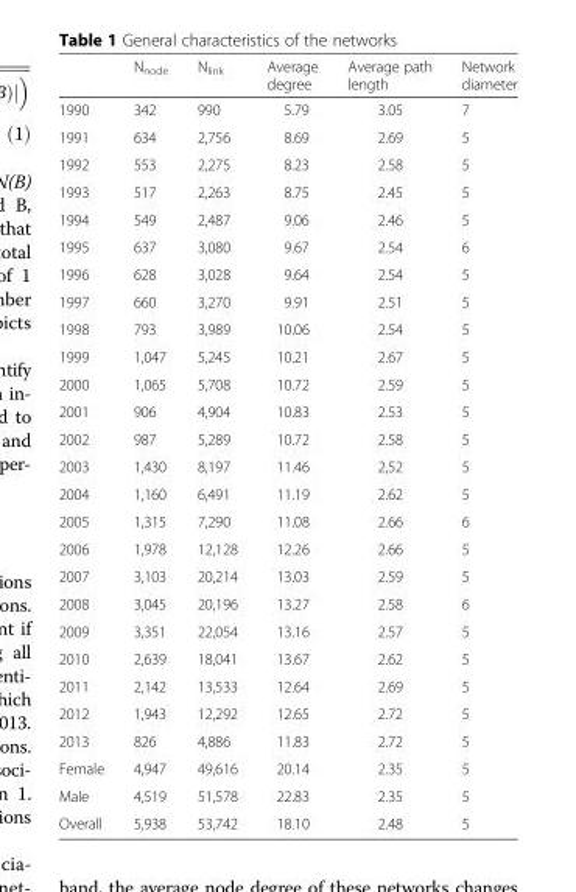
<table><thead><tr><td></td><td>N<sub>node</sub></td><td>N<sub>link</sub></td><td>Average degree</td><td>Average path length</td><td>Network diameter</td></tr></thead><tbody><tr><td>1990</td><td>342</td><td>990</td><td>5.79</td><td>3.05</td><td>7</td></tr><tr><td>1991</td><td>634</td><td>2,756</td><td>8.69</td><td>2.69</td><td>5</td></tr><tr><td>1992</td><td>553</td><td>2,275</td><td>8.23</td><td>2.58</td><td>5</td></tr><tr><td>1993</td><td>517</td><td>2,263</td><td>8.75</td><td>2.45</td><td>5</td></tr><tr><td>1994</td><td>549</td><td>2,487</td><td>9.06</td><td>2.46</td><td>5</td></tr><tr><td>1995</td><td>637</td><td>3,080</td><td>9.67</td><td>2.54</td><td>6</td></tr><tr><td>1996</td><td>628</td><td>3,028</td><td>9.64</td><td>2.54</td><td>5</td></tr><tr><td>1997</td><td>660</td><td>3,270</td><td>9.91</td><td>2.51</td><td>5</td></tr><tr><td>1998</td><td>793</td><td>3,989</td><td>10.06</td><td>2.54</td><td>5</td></tr><tr><td>1999</td><td>1,047</td><td>5,245</td><td>10.21</td><td>2.67</td><td>5</td></tr><tr><td>2000</td><td>1,065</td><td>5,708</td><td>10.72</td><td>2.59</td><td>5</td></tr><tr><td>2001</td><td>906</td><td>4,904</td><td>10.83</td><td>2.53</td><td>5</td></tr><tr><td>2002</td><td>987</td><td>5,289</td><td>10.72</td><td>2.58</td><td>5</td></tr><tr><td>2003</td><td>1,430</td><td>8,197</td><td>11.46</td><td>2,52</td><td>5</td></tr><tr><td>2004</td><td>1,160</td><td>6,491</td><td>11.19</td><td>2.62</td><td>5</td></tr><tr><td>2005</td><td>1,315</td><td>7,290</td><td>11.08</td><td>2.66</td><td>6</td></tr><tr><td>2006</td><td>1,978</td><td>12,128</td><td>12.26</td><td>2.66</td><td>5</td></tr><tr><td>2007</td><td>3,103</td><td>20,214</td><td>13.03</td><td>2.59</td><td>5</td></tr><tr><td>2008</td><td>3,045</td><td>20,196</td><td>13.27</td><td>2.58</td><td>6</td></tr><tr><td>2009</td><td>3,351</td><td>22,054</td><td>13.16</td><td>2.57</td><td>5</td></tr><tr><td>2010</td><td>2,639</td><td>18,041</td><td>13.67</td><td>2.62</td><td>5</td></tr><tr><td>2011</td><td>2,142</td><td>13,533</td><td>12.64</td><td>2.69</td><td>5</td></tr><tr><td>2012</td><td>1,943</td><td>12,292</td><td>12.65</td><td>2.72</td><td>5</td></tr><tr><td>2013</td><td>826</td><td>4,886</td><td>11.83</td><td>2.72</td><td>5</td></tr><tr><td>Female</td><td>4,947</td><td>49,616</td><td>20.14</td><td>2.35</td><td>5</td></tr><tr><td>Male</td><td>4,519</td><td>51,578</td><td>22.83</td><td>2.35</td><td>5</td></tr><tr><td>Overall</td><td>5,938</td><td>53,742</td><td>18.10</td><td>2.48</td><td>5</td></tr></tbody></table>